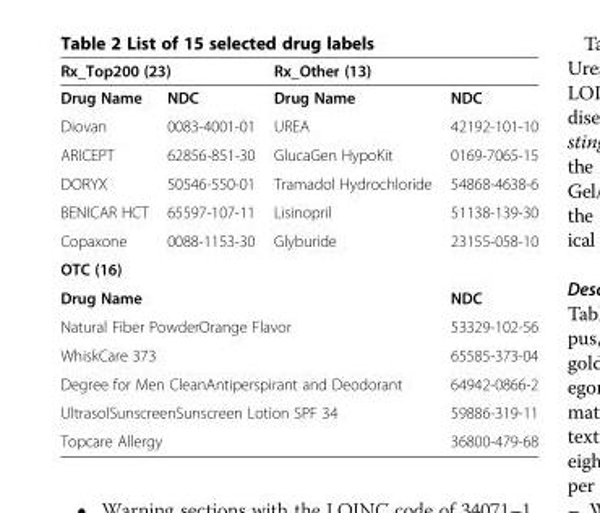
<table><thead><tr><td colspan="2">Rx_Top200 (23)</td><td rowspan="2">Rx_Other (13) Drug Name</td><td rowspan="2">NDC</td></tr><tr><td>Drug Name</td><td>NDC</td></tr></thead><tbody><tr><td>Diovan</td><td>0083-4001-01</td><td>UREA</td><td>42192-101-10</td></tr><tr><td>ARICEPT</td><td>62856-851-30</td><td>GlucaGen HypoKit</td><td>0169-7065-15</td></tr><tr><td>DORYX</td><td>50546-550-01</td><td>Tramadol Hydrochloride</td><td>54868-4638-6</td></tr><tr><td>BENICAR HCT</td><td>65597-107-11</td><td>Lisinopril</td><td>51138-139-30</td></tr><tr><td>Copaxone</td><td>0088-1153-30</td><td>Glyburide</td><td>23155-058-10</td></tr><tr><td colspan="4">OTC (16)</td></tr><tr><td colspan="3">Drug Name</td><td>NDC</td></tr><tr><td colspan="3">Natural Fiber PowderOrange Flavor</td><td>53329-102-56</td></tr><tr><td colspan="3">WhiskCare 373</td><td>65585-373-04</td></tr><tr><td colspan="3">Degree for Men CleanAntiperspirant and Deodorant</td><td>64942-0866-2</td></tr><tr><td colspan="3">UltrasolSunscreenSunscreen Lotion SPF 34</td><td>59886-319-11</td></tr><tr><td colspan="3">Topcare Allergy</td><td>36800-479-68</td></tr></tbody></table>